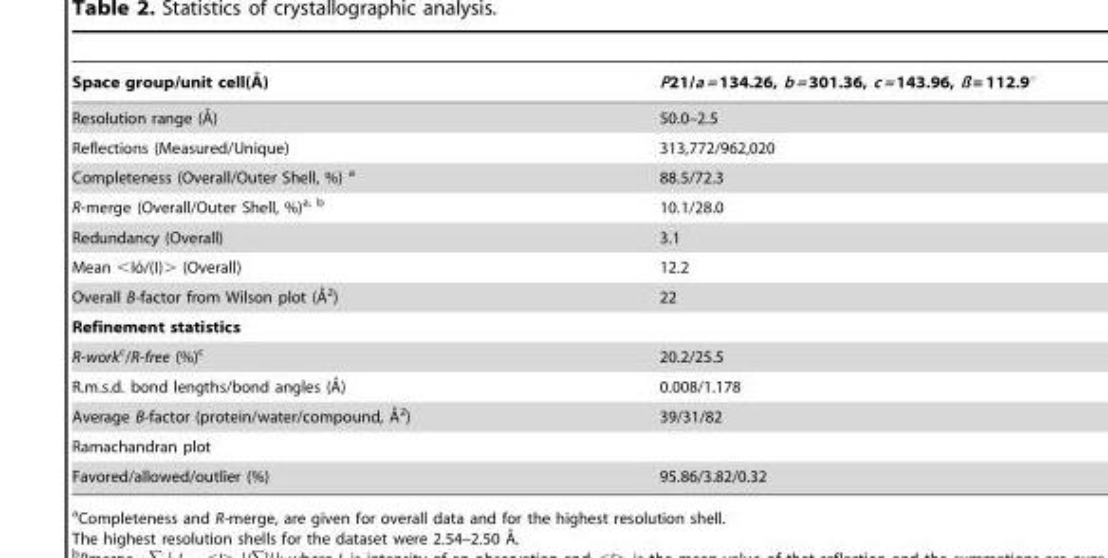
<table><thead><tr><td>Space group/unit cell(A˚ )</td><td>P21/a = 134.26, b = 301.36, c = 143.96, ß = 112.9°</td></tr></thead><tbody><tr><td>Resolution range (A˚)</td><td>50.0–2.5</td></tr><tr><td>Reflections (Measured/Unique)</td><td>313,772/962,020</td></tr><tr><td>Completeness (Overall/Outer Shell, %) a</td><td>88.5/72.3</td></tr><tr><td>R-merge (Overall/Outer Shell, %)a, b</td><td>10.1/28.0</td></tr><tr><td>Redundancy (Overall)</td><td>3.1</td></tr><tr><td>Mean ,Io´/(I). (Overall)</td><td>12.2</td></tr><tr><td>Overall B-factor from Wilson plot (A˚ 2)</td><td>22</td></tr><tr><td colspan="2">Refinement statistics</td></tr><tr><td>R-workc/R-free (%)<sup>c</sup></td><td>20.2/25.5</td></tr><tr><td>R.m.s.d. bond lengths/bond angles (A˚)</td><td>0.008/1.178</td></tr><tr><td>Average B-factor (protein/water/compound, A˚ 2)</td><td>39/31/82</td></tr><tr><td colspan="2">Ramachandran plot</td></tr><tr><td>Favored/allowed/outlier (%)</td><td>95.86/3.82/0.32</td></tr></tbody></table>